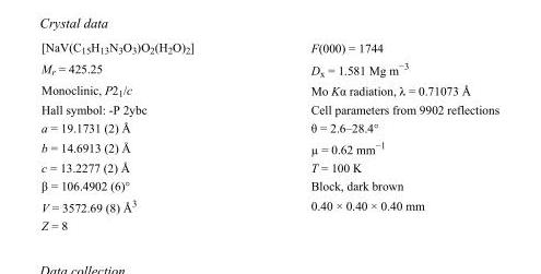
<table><tbody><tr><td>[NaV(C<sub>15</sub>H<sub>13</sub>N<sub>3</sub>O<sub>3</sub>)O<sub>2</sub>(H<sub>2</sub>O)<sub>2</sub>]</td><td>F(000) = 1744</td></tr><tr><td>M<sub>r</sub> = 425.25</td><td>D<sub>x</sub> = 1.581 Mg m<sup>−3</sup></td></tr><tr><td>Monoclinic, P2<sub>1</sub>/c</td><td>Mo Kα radiation, λ = 0.71073 Å</td></tr><tr><td>Hall symbol: -P 2ybc</td><td>Cell parameters from 9902 reflections</td></tr><tr><td>a = 19.1731 (2) Å</td><td>θ = 2.6–28.4°</td></tr><tr><td>b = 14.6913 (2) Å</td><td>µ = 0.62 mm<sup>−1</sup></td></tr><tr><td>c = 13.2277 (2) Å</td><td>T = 100 K</td></tr><tr><td>β = 106.4902 (6)°</td><td>Block, dark brown</td></tr><tr><td>V = 3572.69 (8) Å<sup>3</sup></td><td>0.40 × 0.40 × 0.40 mm</td></tr><tr><td>Z = 8</td><td></td></tr></tbody></table>